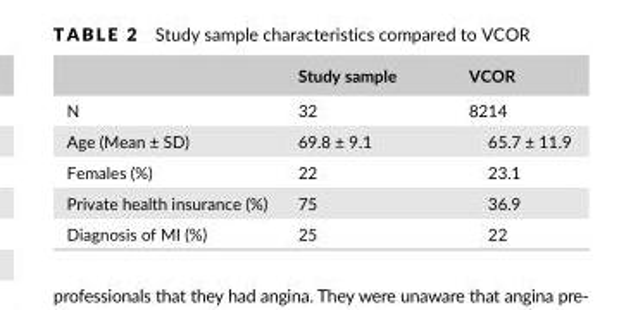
<table><thead><tr><td></td><td>Study sample</td><td>VCOR</td></tr></thead><tbody><tr><td>N</td><td>32</td><td>8214</td></tr><tr><td>Age (Mean ± SD)</td><td>69.8 ± 9.1</td><td>65.7 ± 11.9</td></tr><tr><td>Females (%)</td><td>22</td><td>23.1</td></tr><tr><td>Private health insurance (%)</td><td>75</td><td>36.9</td></tr><tr><td>Diagnosis of MI (%)</td><td>25</td><td>22</td></tr></tbody></table>